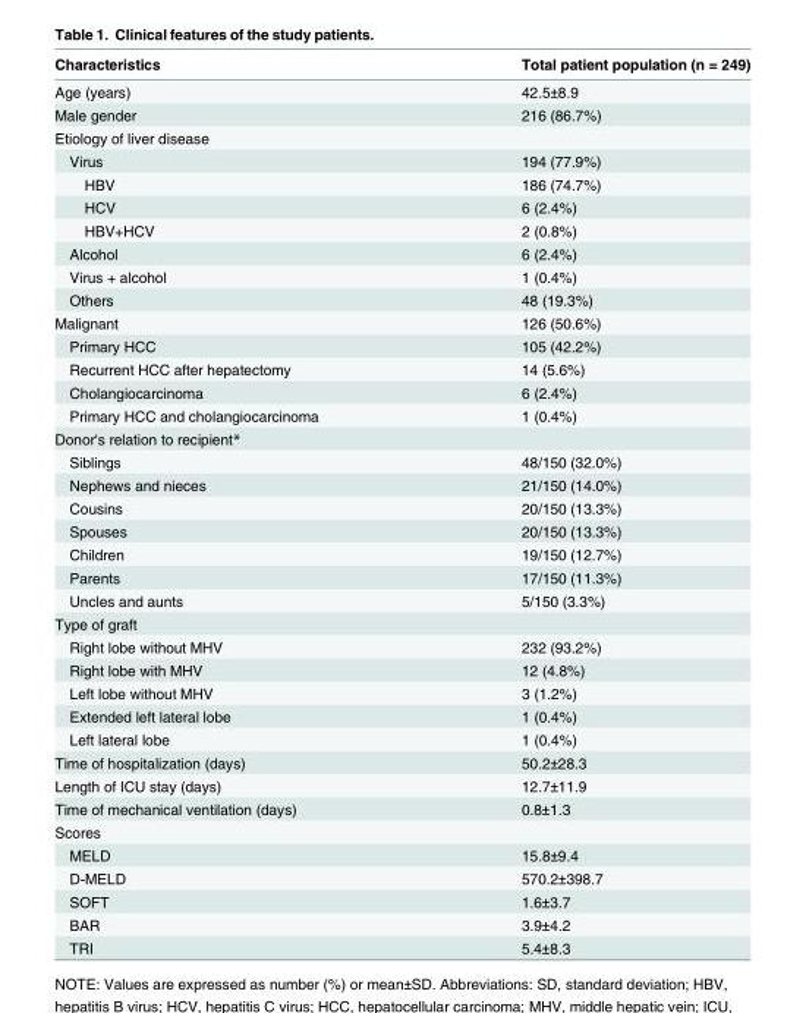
<table><thead><tr><td>Characteristics</td><td>Total patient population (n = 249)</td></tr></thead><tbody><tr><td>Age (years)</td><td>42.5±8.9</td></tr><tr><td>Male gender</td><td>216 (86.7%)</td></tr><tr><td colspan="2">Etiology of liver disease</td></tr><tr><td>Virus</td><td>194 (77.9%)</td></tr><tr><td>HBV</td><td>186 (74.7%)</td></tr><tr><td>HCV</td><td>6 (2.4%)</td></tr><tr><td>HBV+HCV</td><td>2 (0.8%)</td></tr><tr><td>Alcohol</td><td>6 (2.4%)</td></tr><tr><td>Virus + alcohol</td><td>1 (0.4%)</td></tr><tr><td>Others</td><td>48 (19.3%)</td></tr><tr><td>Malignant</td><td>126 (50.6%)</td></tr><tr><td>Primary HCC</td><td>105 (42.2%)</td></tr><tr><td>Recurrent HCC after hepatectomy</td><td>14 (5.6%)</td></tr><tr><td>Cholangiocarcinoma</td><td>6 (2.4%)</td></tr><tr><td>Primary HCC and cholangiocarcinoma</td><td>1 (0.4%)</td></tr><tr><td colspan="2">Donor&#x27;s relation to recipient*</td></tr><tr><td>Siblings</td><td>48/150 (32.0%)</td></tr><tr><td>Nephews and nieces</td><td>21/150 (14.0%)</td></tr><tr><td>Cousins</td><td>20/150 (13.3%)</td></tr><tr><td>Spouses</td><td>20/150 (13.3%)</td></tr><tr><td>Children</td><td>19/150 (12.7%)</td></tr><tr><td>Parents</td><td>17/150 (11.3%)</td></tr><tr><td>Uncles and aunts</td><td>5/150 (3.3%)</td></tr><tr><td colspan="2">Type of graft</td></tr><tr><td>Right lobe without MHV</td><td>232 (93.2%)</td></tr><tr><td>Right lobe with MHV</td><td>12 (4.8%)</td></tr><tr><td>Left lobe without MHV</td><td>3 (1.2%)</td></tr><tr><td>Extended left lateral lobe</td><td>1 (0.4%)</td></tr><tr><td>Left lateral lobe</td><td>1 (0.4%)</td></tr><tr><td>Time of hospitalization (days)</td><td>50.2±28.3</td></tr><tr><td>Length of ICU stay (days)</td><td>12.7±11.9</td></tr><tr><td>Time of mechanical ventilation (days)</td><td>0.8±1.3</td></tr><tr><td colspan="2">Scores</td></tr><tr><td>MELD</td><td>15.8±9.4</td></tr><tr><td>D-MELD</td><td>570.2±398.7</td></tr><tr><td>SOFT</td><td>1.6±3.7</td></tr><tr><td>BAR</td><td>3.9±4.2</td></tr><tr><td>TRI</td><td>5.4±8.3</td></tr></tbody></table>